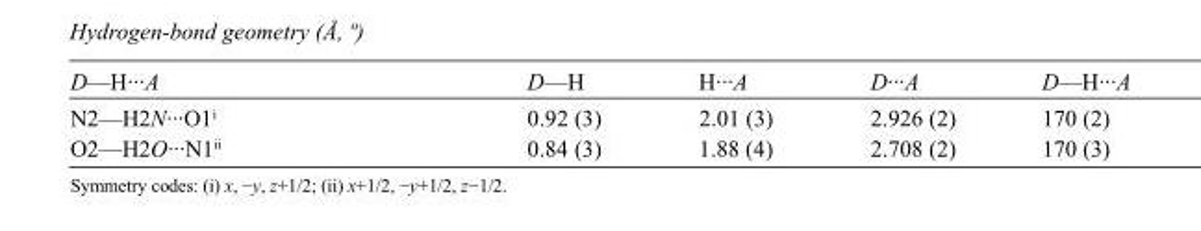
<table><tbody><tr><td>D—H···A</td><td>D—H</td><td>H···A</td><td>D···A</td><td>D—H···A</td></tr><tr><td>N2—H2N···O1<sup>i</sup></td><td>0.92 (3)</td><td>2.01 (3)</td><td>2.926 (2)</td><td>170 (2)</td></tr><tr><td>O2—H2O···N1<sup>ii</sup></td><td>0.84 (3)</td><td>1.88 (4)</td><td>2.708 (2)</td><td>170 (3)</td></tr></tbody></table>